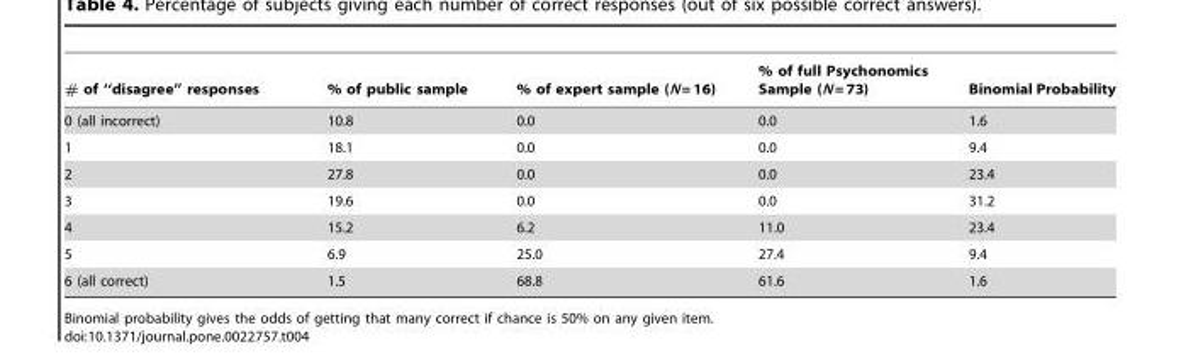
<table><thead><tr><td># of ‘‘disagree’’ responses</td><td>% of public sample</td><td>% of expert sample (N = 16)</td><td>% of full Psychonomics Sample (N = 73)</td><td>Binomial Probability</td></tr></thead><tbody><tr><td>0 (all incorrect)</td><td>10.8</td><td>0.0</td><td>0.0</td><td>1.6</td></tr><tr><td>1</td><td>18.1</td><td>0.0</td><td>0.0</td><td>9.4</td></tr><tr><td>2</td><td>27.8</td><td>0.0</td><td>0.0</td><td>23.4</td></tr><tr><td>3</td><td>19.6</td><td>0.0</td><td>0.0</td><td>31.2</td></tr><tr><td>4</td><td>15.2</td><td>6.2</td><td>11.0</td><td>23.4</td></tr><tr><td>5</td><td>6.9</td><td>25.0</td><td>27.4</td><td>9.4</td></tr><tr><td>6 (all correct)</td><td>1.5</td><td>68.8</td><td>61.6</td><td>1.6</td></tr></tbody></table>